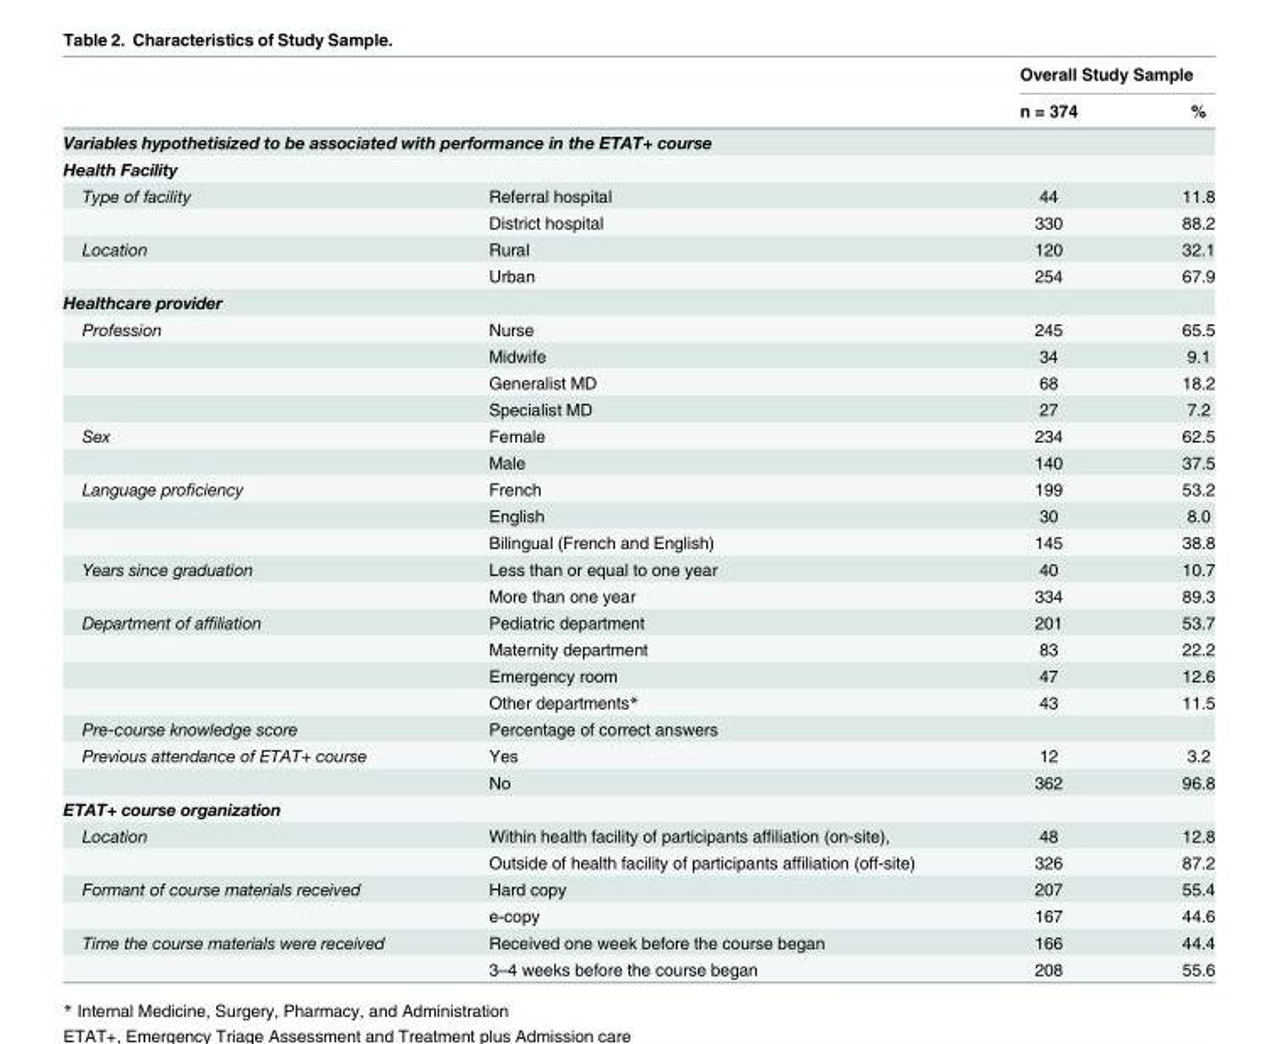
<table><thead><tr><td rowspan="2"></td><td rowspan="2"></td><td colspan="2">Overall Study Sample</td></tr><tr><td>n = 374</td><td>%</td></tr></thead><tbody><tr><td colspan="4">Variables hypothetisized to be associated with performance in the ETAT+ course</td></tr><tr><td colspan="4">Health Facility</td></tr><tr><td rowspan="2">Type of facility</td><td>Referral hospital</td><td>44</td><td>11.8</td></tr><tr><td>District hospital</td><td>330</td><td>88.2</td></tr><tr><td rowspan="2">Location</td><td>Rural</td><td>120</td><td>32.1</td></tr><tr><td>Urban</td><td>254</td><td>67.9</td></tr><tr><td colspan="4">Healthcare provider</td></tr><tr><td rowspan="4">Profession</td><td>Nurse</td><td>245</td><td>65.5</td></tr><tr><td>Midwife</td><td>34</td><td>9.1</td></tr><tr><td>Generalist MD</td><td>68</td><td>18.2</td></tr><tr><td>Specialist MD</td><td>27</td><td>7.2</td></tr><tr><td rowspan="2">Sex</td><td>Female</td><td>234</td><td>62.5</td></tr><tr><td>Male</td><td>140</td><td>37.5</td></tr><tr><td rowspan="3">Language proficiency</td><td>French</td><td>199</td><td>53.2</td></tr><tr><td>English</td><td>30</td><td>8.0</td></tr><tr><td>Bilingual (French and English)</td><td>145</td><td>38.8</td></tr><tr><td rowspan="2">Years since graduation</td><td>Less than or equal to one year</td><td>40</td><td>10.7</td></tr><tr><td>More than one year</td><td>334</td><td>89.3</td></tr><tr><td rowspan="4">Department of affiliation</td><td>Pediatric department</td><td>201</td><td>53.7</td></tr><tr><td>Maternity department</td><td>83</td><td>22.2</td></tr><tr><td>Emergency room</td><td>47</td><td>12.6</td></tr><tr><td>Other departments*</td><td>43</td><td>11.5</td></tr><tr><td>Pre-course knowledge score</td><td>Percentage of correct answers</td><td></td><td></td></tr><tr><td rowspan="2">Previous attendance of ETAT+ course</td><td>Yes</td><td>12</td><td>3.2</td></tr><tr><td>No</td><td>362</td><td>96.8</td></tr><tr><td colspan="4">ETAT+ course organization</td></tr><tr><td rowspan="2">Location</td><td>Within health facility of participants affiliation (on-site),</td><td>48</td><td>12.8</td></tr><tr><td>Outside of health facility of participants affiliation (off-site)</td><td>326</td><td>87.2</td></tr><tr><td rowspan="2">Formant of course materials received</td><td>Hard copy</td><td>207</td><td>55.4</td></tr><tr><td>e-copy</td><td>167</td><td>44.6</td></tr><tr><td rowspan="2">Time the course materials were received</td><td>Received one week before the course began</td><td>166</td><td>44.4</td></tr><tr><td>3–4 weeks before the course began</td><td>208</td><td>55.6</td></tr></tbody></table>